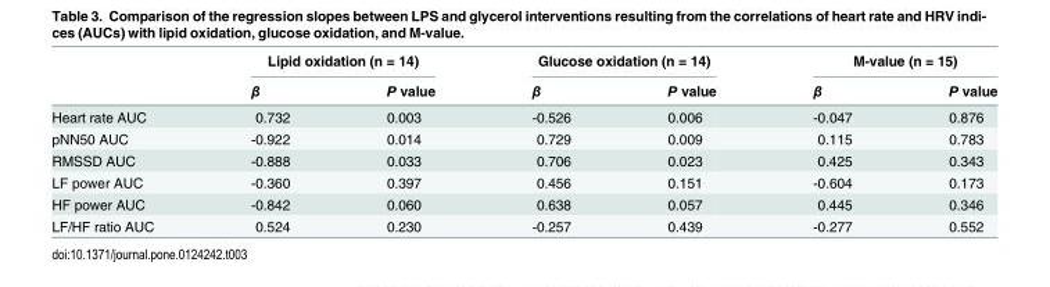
<table><thead><tr><td rowspan="2"></td><td colspan="2">Lipid oxidation (n = 14)</td><td colspan="2">Glucose oxidation (n = 14)</td><td colspan="2">M-value (n = 15)</td></tr><tr><td>β</td><td>P value</td><td>β</td><td>P value</td><td>β</td><td>P value</td></tr></thead><tbody><tr><td>Heart rate AUC</td><td>0.732</td><td>0.003</td><td>-0.526</td><td>0.006</td><td>-0.047</td><td>0.876</td></tr><tr><td>pNN50 AUC</td><td>-0.922</td><td>0.014</td><td>0.729</td><td>0.009</td><td>0.115</td><td>0.783</td></tr><tr><td>RMSSD AUC</td><td>-0.888</td><td>0.033</td><td>0.706</td><td>0.023</td><td>0.425</td><td>0.343</td></tr><tr><td>LF power AUC</td><td>-0.360</td><td>0.397</td><td>0.456</td><td>0.151</td><td>-0.604</td><td>0.173</td></tr><tr><td>HF power AUC</td><td>-0.842</td><td>0.060</td><td>0.638</td><td>0.057</td><td>0.445</td><td>0.346</td></tr><tr><td>LF/HF ratio AUC</td><td>0.524</td><td>0.230</td><td>-0.257</td><td>0.439</td><td>-0.277</td><td>0.552</td></tr></tbody></table>